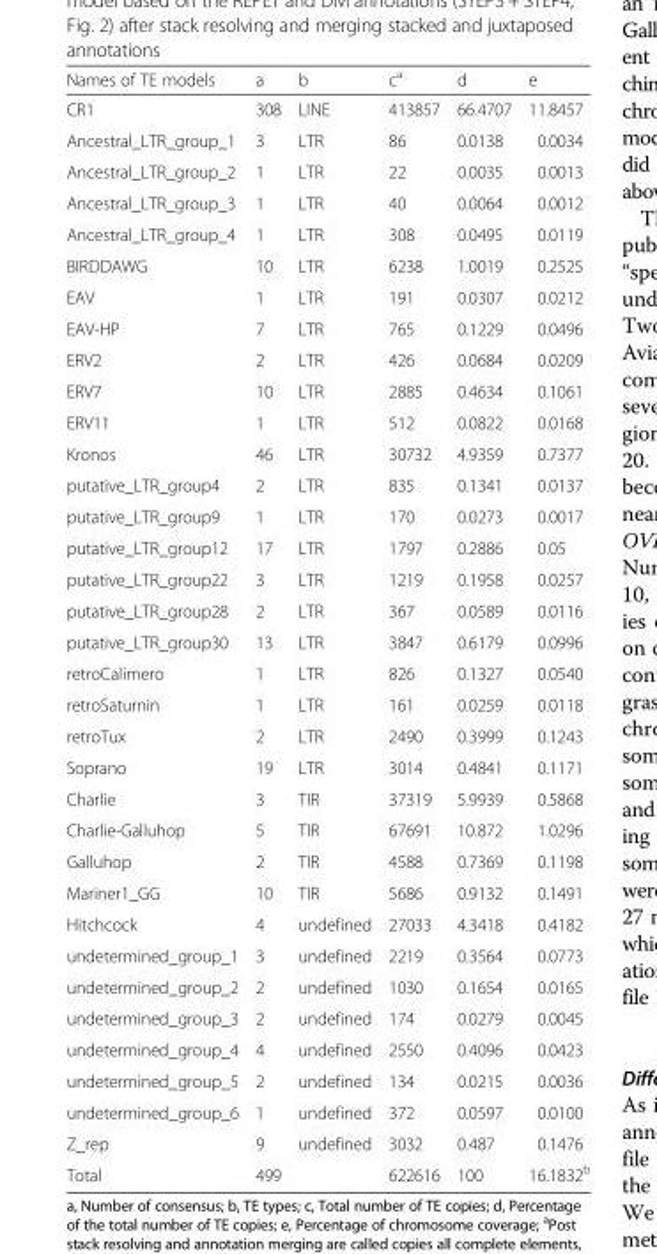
<table><thead><tr><td>Names of TE models</td><td>a</td><td>b</td><td>c<sup>a</sup></td><td>d</td><td>e</td></tr></thead><tbody><tr><td>CR1</td><td>308</td><td>LINE</td><td>413857</td><td>66.4707</td><td>11.8457</td></tr><tr><td>Ancestral_LTR_group_1</td><td>3</td><td>LTR</td><td>86</td><td>0.0138</td><td>0.0034</td></tr><tr><td>Ancestral_LTR_group_2</td><td>1</td><td>LTR</td><td>22</td><td>0.0035</td><td>0.0013</td></tr><tr><td>Ancestral_LTR_group_3</td><td>1</td><td>LTR</td><td>40</td><td>0.0064</td><td>0.0012</td></tr><tr><td>Ancestral_LTR_group_4</td><td>1</td><td>LTR</td><td>308</td><td>0.0495</td><td>0.0119</td></tr><tr><td>BIRDDAWG</td><td>10</td><td>LTR</td><td>6238</td><td>1.0019</td><td>0.2525</td></tr><tr><td>EAV</td><td>1</td><td>LTR</td><td>191</td><td>0.0307</td><td>0.0212</td></tr><tr><td>EAV-HP</td><td>7</td><td>LTR</td><td>765</td><td>0.1229</td><td>0.0496</td></tr><tr><td>ERV2</td><td>2</td><td>LTR</td><td>426</td><td>0.0684</td><td>0.0209</td></tr><tr><td>ERV7</td><td>10</td><td>LTR</td><td>2885</td><td>0.4634</td><td>0.1061</td></tr><tr><td>ERV11</td><td>1</td><td>LTR</td><td>512</td><td>0.0822</td><td>0.0168</td></tr><tr><td>Kronos</td><td>46</td><td>LTR</td><td>30732</td><td>4.9359</td><td>0.7377</td></tr><tr><td>putative_LTR_group4</td><td>2</td><td>LTR</td><td>835</td><td>0.1341</td><td>0.0137</td></tr><tr><td>putative_LTR_group9</td><td>1</td><td>LTR</td><td>170</td><td>0.0273</td><td>0.0017</td></tr><tr><td>putative_LTR_group12</td><td>17</td><td>LTR</td><td>1797</td><td>0.2886</td><td>0.05</td></tr><tr><td>putative_LTR_group22</td><td>3</td><td>LTR</td><td>1219</td><td>0.1958</td><td>0.0257</td></tr><tr><td>putative_LTR_group28</td><td>2</td><td>LTR</td><td>367</td><td>0.0589</td><td>0.0116</td></tr><tr><td>putative_LTR_group30</td><td>13</td><td>LTR</td><td>3847</td><td>0.6179</td><td>0.0996</td></tr><tr><td>retroCalimero</td><td>1</td><td>LTR</td><td>826</td><td>0.1327</td><td>0.0540</td></tr><tr><td>retroSaturnin</td><td>1</td><td>LTR</td><td>161</td><td>0.0259</td><td>0.0118</td></tr><tr><td>retroTux</td><td>2</td><td>LTR</td><td>2490</td><td>0.3999</td><td>0.1243</td></tr><tr><td>Soprano</td><td>19</td><td>LTR</td><td>3014</td><td>0.4841</td><td>0.1171</td></tr><tr><td>Charlie</td><td>3</td><td>TIR</td><td>37319</td><td>5.9939</td><td>0.5868</td></tr><tr><td>Charlie-Galluhop</td><td>5</td><td>TIR</td><td>67691</td><td>10.872</td><td>1.0296</td></tr><tr><td>Galluhop</td><td>2</td><td>TIR</td><td>4588</td><td>0.7369</td><td>0.1198</td></tr><tr><td>Mariner1_GG</td><td>10</td><td>TIR</td><td>5686</td><td>0.9132</td><td>0.1491</td></tr><tr><td>Hitchcock</td><td>4</td><td>undefined</td><td>27033</td><td>4.3418</td><td>0.4182</td></tr><tr><td>undetermined_group_1</td><td>3</td><td>undefined</td><td>2219</td><td>0.3564</td><td>0.0773</td></tr><tr><td>undetermined_group_2</td><td>2</td><td>undefined</td><td>1030</td><td>0.1654</td><td>0.0165</td></tr><tr><td>undetermined_group_3</td><td>2</td><td>undefined</td><td>174</td><td>0.0279</td><td>0.0045</td></tr><tr><td>undetermined_group_4</td><td>4</td><td>undefined</td><td>2550</td><td>0.4096</td><td>0.0423</td></tr><tr><td>undetermined_group_5</td><td>2</td><td>undefined</td><td>134</td><td>0.0215</td><td>0.0036</td></tr><tr><td>undetermined_group_6</td><td>1</td><td>undefined</td><td>372</td><td>0.0597</td><td>0.0100</td></tr><tr><td>Z_rep</td><td>9</td><td>undefined</td><td>3032</td><td>0.487</td><td>0.1476</td></tr><tr><td>Total</td><td>499</td><td></td><td>622616</td><td>100</td><td>16.1832<sup>b</sup></td></tr></tbody></table>